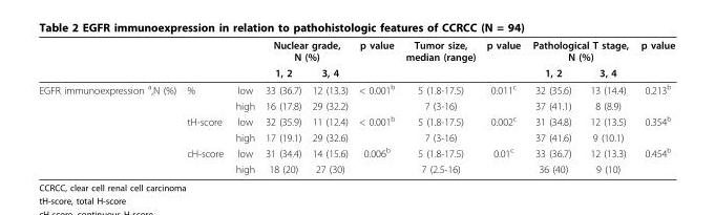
<table><thead><tr><td rowspan="2"></td><td rowspan="2"></td><td rowspan="2"></td><td colspan="2">Nuclear grade, N (%)</td><td rowspan="2">p value</td><td rowspan="2">Tumor size, median (range)</td><td rowspan="2">p value</td><td colspan="2">Pathological T stage, N (%)</td><td rowspan="2">p value</td></tr><tr><td>1, 2</td><td>3, 4</td><td>1, 2</td><td>3, 4</td></tr></thead><tbody><tr><td rowspan="6">EGFR immunoexpression <sup>a</sup>,N (%)</td><td>%</td><td>low</td><td>33 (36.7)</td><td>12 (13.3)</td><td>&lt; 0.001<sup>b</sup></td><td>5 (1.8-17.5)</td><td>0.011<sup>c</sup></td><td>32 (35.6)</td><td>13 (14.4)</td><td>0.213<sup>b</sup></td></tr><tr><td></td><td>high</td><td>16 (17.8)</td><td>29 (32.2)</td><td></td><td>7 (3-16)</td><td></td><td>37 (41.1)</td><td>8 (8.9)</td><td></td></tr><tr><td>tH-score</td><td>low</td><td>32 (35.9)</td><td>11 (12.4)</td><td>&lt; 0.001<sup>b</sup></td><td>5 (1.8-17.5)</td><td>0.002<sup>c</sup></td><td>31 (34.8)</td><td>12 (13.5)</td><td>0.354<sup>b</sup></td></tr><tr><td></td><td>high</td><td>17 (19.1)</td><td>29 (32.6)</td><td></td><td>7 (3-16)</td><td></td><td>37 (41.6)</td><td>9 (10.1)</td><td></td></tr><tr><td>cH-score</td><td>low</td><td>31 (34.4)</td><td>14 (15.6)</td><td>0.006<sup>b</sup></td><td>5 (1.8-17.5)</td><td>0.01<sup>c</sup></td><td>33 (36.7)</td><td>12 (13.3)</td><td>0.454<sup>b</sup></td></tr><tr><td></td><td>high</td><td>18 (20)</td><td>27 (30)</td><td></td><td>7 (2.5-16)</td><td></td><td>36 (40)</td><td>9 (10)</td><td></td></tr></tbody></table>